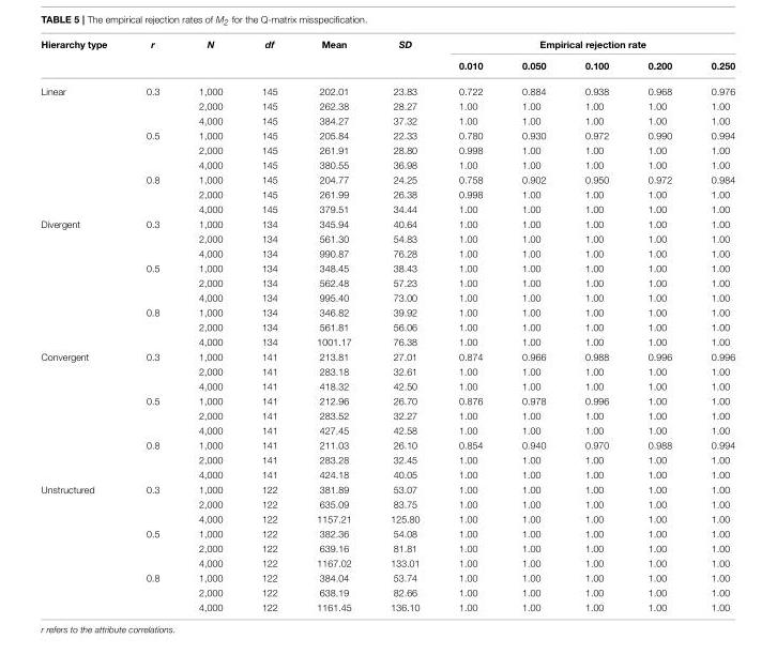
<table><thead><tr><td rowspan="2">Hierarchy type</td><td rowspan="2">r</td><td rowspan="2">N</td><td rowspan="2">df</td><td rowspan="2">Mean</td><td rowspan="2">SD</td><td colspan="5">Empirical rejection rate</td></tr><tr><td>0.010</td><td>0.050</td><td>0.100</td><td>0.200</td><td>0.250</td></tr></thead><tbody><tr><td rowspan="9">Linear</td><td>0.3</td><td>1,000</td><td>145</td><td>202.01</td><td>23.83</td><td>0.722</td><td>0.884</td><td>0.938</td><td>0.968</td><td>0.976</td></tr><tr><td></td><td>2,000</td><td>145</td><td>262.38</td><td>28.27</td><td>1.00</td><td>1.00</td><td>1.00</td><td>1.00</td><td>1.00</td></tr><tr><td></td><td>4,000</td><td>145</td><td>384.27</td><td>37.32</td><td>1.00</td><td>1.00</td><td>1.00</td><td>1.00</td><td>1.00</td></tr><tr><td>0.5</td><td>1,000</td><td>145</td><td>205.84</td><td>22.33</td><td>0.780</td><td>0.930</td><td>0.972</td><td>0.990</td><td>0.994</td></tr><tr><td></td><td>2,000</td><td>145</td><td>261.91</td><td>28.80</td><td>0.998</td><td>1.00</td><td>1.00</td><td>1.00</td><td>1.00</td></tr><tr><td></td><td>4,000</td><td>145</td><td>380.55</td><td>36.98</td><td>1.00</td><td>1.00</td><td>1.00</td><td>1.00</td><td>1.00</td></tr><tr><td>0.8</td><td>1,000</td><td>145</td><td>204.77</td><td>24.25</td><td>0.758</td><td>0.902</td><td>0.950</td><td>0.972</td><td>0.984</td></tr><tr><td></td><td>2,000</td><td>145</td><td>261.99</td><td>26.38</td><td>0.998</td><td>1.00</td><td>1.00</td><td>1.00</td><td>1.00</td></tr><tr><td></td><td>4,000</td><td>145</td><td>379.51</td><td>34.44</td><td>1.00</td><td>1.00</td><td>1.00</td><td>1.00</td><td>1.00</td></tr><tr><td rowspan="9">Divergent</td><td>0.3</td><td>1,000</td><td>134</td><td>345.94</td><td>40.64</td><td>1.00</td><td>1.00</td><td>1.00</td><td>1.00</td><td>1.00</td></tr><tr><td></td><td>2,000</td><td>134</td><td>561.30</td><td>54.83</td><td>1.00</td><td>1.00</td><td>1.00</td><td>1.00</td><td>1.00</td></tr><tr><td></td><td>4,000</td><td>134</td><td>990.87</td><td>76.28</td><td>1.00</td><td>1.00</td><td>1.00</td><td>1.00</td><td>1.00</td></tr><tr><td>0.5</td><td>1,000</td><td>134</td><td>348.45</td><td>38.43</td><td>1.00</td><td>1.00</td><td>1.00</td><td>1.00</td><td>1.00</td></tr><tr><td></td><td>2,000</td><td>134</td><td>562.48</td><td>57.23</td><td>1.00</td><td>1.00</td><td>1.00</td><td>1.00</td><td>1.00</td></tr><tr><td></td><td>4,000</td><td>134</td><td>995.40</td><td>73.00</td><td>1.00</td><td>1.00</td><td>1.00</td><td>1.00</td><td>1.00</td></tr><tr><td>0.8</td><td>1,000</td><td>134</td><td>346.82</td><td>39.92</td><td>1.00</td><td>1.00</td><td>1.00</td><td>1.00</td><td>1.00</td></tr><tr><td></td><td>2,000</td><td>134</td><td>561.81</td><td>56.06</td><td>1.00</td><td>1.00</td><td>1.00</td><td>1.00</td><td>1.00</td></tr><tr><td></td><td>4,000</td><td>134</td><td>1001.17</td><td>76.38</td><td>1.00</td><td>1.00</td><td>1.00</td><td>1.00</td><td>1.00</td></tr><tr><td rowspan="9">Convergent</td><td>0.3</td><td>1,000</td><td>141</td><td>213.81</td><td>27.01</td><td>0.874</td><td>0.966</td><td>0.988</td><td>0.996</td><td>0.996</td></tr><tr><td></td><td>2,000</td><td>141</td><td>283.18</td><td>32.61</td><td>1.00</td><td>1.00</td><td>1.00</td><td>1.00</td><td>1.00</td></tr><tr><td></td><td>4,000</td><td>141</td><td>418.32</td><td>42.50</td><td>1.00</td><td>1.00</td><td>1.00</td><td>1.00</td><td>1.00</td></tr><tr><td>0.5</td><td>1,000</td><td>141</td><td>212.96</td><td>26.70</td><td>0.876</td><td>0.978</td><td>0.996</td><td>1.00</td><td>1.00</td></tr><tr><td></td><td>2,000</td><td>141</td><td>283.52</td><td>32.27</td><td>1.00</td><td>1.00</td><td>1.00</td><td>1.00</td><td>1.00</td></tr><tr><td></td><td>4,000</td><td>141</td><td>427.45</td><td>42.58</td><td>1.00</td><td>1.00</td><td>1.00</td><td>1.00</td><td>1.00</td></tr><tr><td>0.8</td><td>1,000</td><td>141</td><td>211.03</td><td>26.10</td><td>0.854</td><td>0.940</td><td>0.970</td><td>0.988</td><td>0.994</td></tr><tr><td></td><td>2,000</td><td>141</td><td>283.28</td><td>32.45</td><td>1.00</td><td>1.00</td><td>1.00</td><td>1.00</td><td>1.00</td></tr><tr><td></td><td>4,000</td><td>141</td><td>424.18</td><td>40.05</td><td>1.00</td><td>1.00</td><td>1.00</td><td>1.00</td><td>1.00</td></tr><tr><td rowspan="9">Unstructured</td><td>0.3</td><td>1,000</td><td>122</td><td>381.89</td><td>53.07</td><td>1.00</td><td>1.00</td><td>1.00</td><td>1.00</td><td>1.00</td></tr><tr><td></td><td>2,000</td><td>122</td><td>635.09</td><td>83.75</td><td>1.00</td><td>1.00</td><td>1.00</td><td>1.00</td><td>1.00</td></tr><tr><td></td><td>4,000</td><td>122</td><td>1157.21</td><td>125.80</td><td>1.00</td><td>1.00</td><td>1.00</td><td>1.00</td><td>1.00</td></tr><tr><td>0.5</td><td>1,000</td><td>122</td><td>382.36</td><td>54.08</td><td>1.00</td><td>1.00</td><td>1.00</td><td>1.00</td><td>1.00</td></tr><tr><td></td><td>2,000</td><td>122</td><td>639.16</td><td>81.81</td><td>1.00</td><td>1.00</td><td>1.00</td><td>1.00</td><td>1.00</td></tr><tr><td></td><td>4,000</td><td>122</td><td>1167.02</td><td>133.01</td><td>1.00</td><td>1.00</td><td>1.00</td><td>1.00</td><td>1.00</td></tr><tr><td>0.8</td><td>1,000</td><td>122</td><td>384.04</td><td>53.74</td><td>1.00</td><td>1.00</td><td>1.00</td><td>1.00</td><td>1.00</td></tr><tr><td></td><td>2,000</td><td>122</td><td>638.19</td><td>82.66</td><td>1.00</td><td>1.00</td><td>1.00</td><td>1.00</td><td>1.00</td></tr><tr><td></td><td>4,000</td><td>122</td><td>1161.45</td><td>136.10</td><td>1.00</td><td>1.00</td><td>1.00</td><td>1.00</td><td>1.00</td></tr></tbody></table>